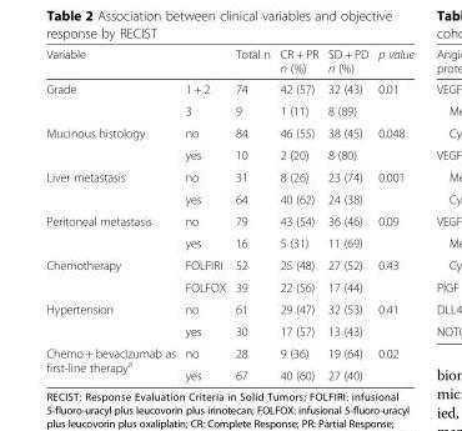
<table><thead><tr><td>Variable</td><td></td><td>Total n</td><td>CR + PR n (%)</td><td>SD + PD n (%)</td><td>p value</td></tr></thead><tbody><tr><td rowspan="2">Grade</td><td>1 + 2</td><td>74</td><td>42 (57)</td><td>32 (43)</td><td rowspan="2">0.01</td></tr><tr><td>3</td><td>9</td><td>1 (11)</td><td>8 (89)</td></tr><tr><td rowspan="2">Mucinous histology</td><td>no</td><td>84</td><td>46 (55)</td><td>38 (45)</td><td rowspan="2">0.048</td></tr><tr><td>yes</td><td>10</td><td>2 (20)</td><td>8 (80)</td></tr><tr><td rowspan="2">Liver metastasis</td><td>no</td><td>31</td><td>8 (26)</td><td>23 (74)</td><td rowspan="2">0.001</td></tr><tr><td>yes</td><td>64</td><td>40 (62)</td><td>24 (38)</td></tr><tr><td rowspan="2">Peritoneal metastasis</td><td>no</td><td>79</td><td>43 (54)</td><td>36 (46)</td><td rowspan="2">0.09</td></tr><tr><td>yes</td><td>16</td><td>5 (31)</td><td>11 (69)</td></tr><tr><td rowspan="2">Chemotherapy</td><td>FOLFIRI</td><td>52</td><td>25 (48)</td><td>27 (52)</td><td rowspan="2">0.43</td></tr><tr><td>FOLFOX</td><td>39</td><td>22 (56)</td><td>17 (44)</td></tr><tr><td rowspan="2">Hypertension</td><td>no</td><td>61</td><td>29 (47)</td><td>32 (53)</td><td rowspan="2">0.41</td></tr><tr><td>yes</td><td>30</td><td>17 (57)</td><td>13 (43)</td></tr><tr><td rowspan="2">Chemo + bevacizumab as first-line therapy<sup>a</sup></td><td>no</td><td>28</td><td>9 (36)</td><td>19 (64)</td><td rowspan="2">0.02</td></tr><tr><td>yes</td><td>67</td><td>40 (60)</td><td>27 (40)</td></tr></tbody></table>